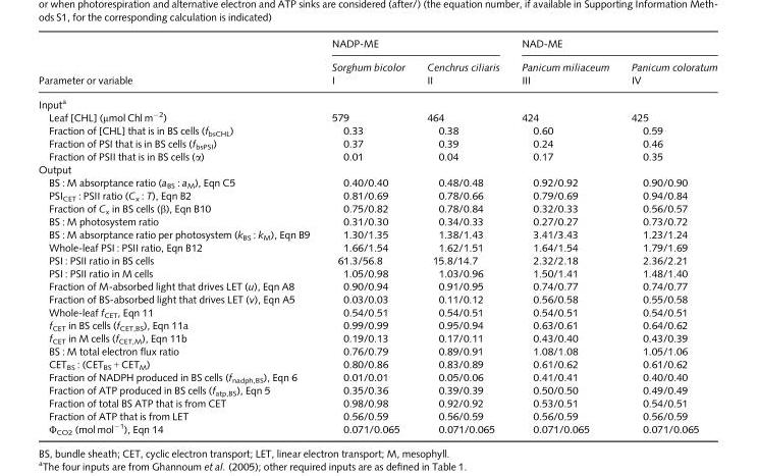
<table><thead><tr><td rowspan="3">Parameter or variable</td><td colspan="2">NADP-ME</td><td colspan="2">NAD-ME</td></tr><tr><td rowspan="2">Sorghum bicolor I</td><td rowspan="2">Cenchrus ciliaris II</td><td rowspan="2">Panicum miliaceum III</td><td rowspan="2">Panicum coloratum IV</td></tr><tr></tr></thead><tbody><tr><td colspan="5">Input<sup>a</sup></td></tr><tr><td>Leaf [CHL] (µmol Chl m<sup>−2</sup>)</td><td>579</td><td>464</td><td>424</td><td>425</td></tr><tr><td>Fraction of [CHL] that is in BS cells (f<sub>bsCHL</sub>)</td><td>0.33</td><td>0.38</td><td>0.60</td><td>0.59</td></tr><tr><td>Fraction of PSI that is in BS cells (f<sub>bsPSI</sub>)</td><td>0.37</td><td>0.39</td><td>0.24</td><td>0.46</td></tr><tr><td>Fraction of PSII that is in BS cells (α)</td><td>0.01</td><td>0.04</td><td>0.17</td><td>0.35</td></tr><tr><td colspan="5">Output</td></tr><tr><td>BS : M absorptance ratio (a<sub>BS</sub> : a<sub>M</sub>), Eqn C5</td><td>0.40/0.40</td><td>0.48/0.48</td><td>0.92/0.92</td><td>0.90/0.90</td></tr><tr><td>PSI<sub>CET</sub> : PSII ratio (C<sub>x</sub> : T), Eqn B2</td><td>0.81/0.69</td><td>0.78/0.66</td><td>0.79/0.69</td><td>0.94/0.84</td></tr><tr><td>Fraction of C<sub>x</sub> in BS cells (β), Eqn B10</td><td>0.75/0.82</td><td>0.78/0.84</td><td>0.32/0.33</td><td>0.56/0.57</td></tr><tr><td>BS : M photosystem ratio</td><td>0.31/0.30</td><td>0.34/0.33</td><td>0.27/0.27</td><td>0.73/0.72</td></tr><tr><td>BS : M absorptance ratio per photosystem (k<sub>BS</sub> : k<sub>M</sub>), Eqn B9</td><td>1.30/1.35</td><td>1.38/1.43</td><td>3.41/3.43</td><td>1.23/1.24</td></tr><tr><td>Whole-leaf PSI : PSII ratio, Eqn B12</td><td>1.66/1.54</td><td>1.62/1.51</td><td>1.64/1.54</td><td>1.79/1.69</td></tr><tr><td>PSI : PSII ratio in BS cells</td><td>61.3/56.8</td><td>15.8/14.7</td><td>2.32/2.18</td><td>2.36/2.21</td></tr><tr><td>PSI : PSII ratio in M cells</td><td>1.05/0.98</td><td>1.03/0.96</td><td>1.50/1.41</td><td>1.48/1.40</td></tr><tr><td>Fraction of M-absorbed light that drives LET (u), Eqn A8</td><td>0.90/0.94</td><td>0.91/0.95</td><td>0.74/0.77</td><td>0.74/0.77</td></tr><tr><td>Fraction of BS-absorbed light that drives LET (v), Eqn A5</td><td>0.03/0.03</td><td>0.11/0.12</td><td>0.56/0.58</td><td>0.55/0.58</td></tr><tr><td>Whole-leaf f<sub>CET</sub>, Eqn 11</td><td>0.54/0.51</td><td>0.54/0.51</td><td>0.54/0.51</td><td>0.54/0.51</td></tr><tr><td>f<sub>CET</sub> in BS cells (f<sub>CET,BS</sub>), Eqn 11a</td><td>0.99/0.99</td><td>0.95/0.94</td><td>0.63/0.61</td><td>0.64/0.62</td></tr><tr><td>f<sub>CET</sub> in M cells (f<sub>CET,M</sub>), Eqn 11b</td><td>0.19/0.13</td><td>0.17/0.11</td><td>0.43/0.40</td><td>0.43/0.39</td></tr><tr><td>BS : M total electron flux ratio</td><td>0.76/0.79</td><td>0.89/0.91</td><td>1.08/1.08</td><td>1.05/1.06</td></tr><tr><td>CET<sub>BS</sub> : (CET<sub>BS</sub> + CET<sub>M</sub>)</td><td>0.80/0.86</td><td>0.83/0.89</td><td>0.61/0.62</td><td>0.61/0.62</td></tr><tr><td>Fraction of NADPH produced in BS cells (f<sub>nadph,BS</sub>), Eqn 6</td><td>0.01/0.01</td><td>0.05/0.06</td><td>0.41/0.41</td><td>0.40/0.40</td></tr><tr><td>Fraction of ATP produced in BS cells (f<sub>atp,BS</sub>), Eqn 5</td><td>0.35/0.36</td><td>0.39/0.39</td><td>0.50/0.50</td><td>0.49/0.49</td></tr><tr><td>Fraction of total BS ATP that is from CET</td><td>0.98/0.98</td><td>0.92/0.92</td><td>0.53/0.51</td><td>0.54/0.51</td></tr><tr><td>Fraction of ATP that is from LET</td><td>0.56/0.59</td><td>0.56/0.59</td><td>0.56/0.59</td><td>0.56/0.59</td></tr><tr><td>Φ<sub>CO2</sub> (mol mol<sup>−1</sup>), Eqn 14</td><td>0.071/0.065</td><td>0.071/0.065</td><td>0.071/0.065</td><td>0.071/0.065</td></tr></tbody></table>